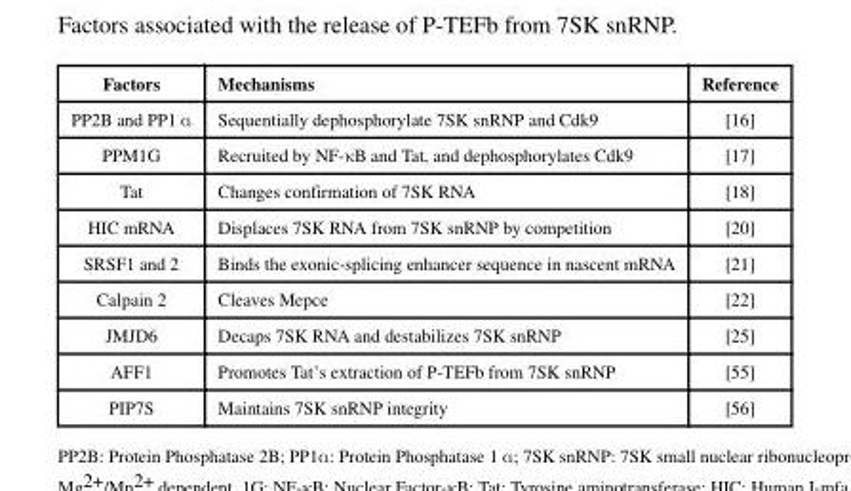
<table><thead><tr><td>Factors</td><td>Mechanisms</td><td>Reference</td></tr></thead><tbody><tr><td>PP2B and PP1 α</td><td>Sequentially dephosphorylate 7SK snRNP and Cdk9</td><td>[16]</td></tr><tr><td>PPM1G</td><td>Recruited by NF-κB and Tat, and dephosphorylates Cdk9</td><td>[17]</td></tr><tr><td>Tat</td><td>Changes confirmation of 7SK RNA</td><td>[18]</td></tr><tr><td>HIC mRNA</td><td>Displaces 7SK RNA from 7SK snRNP by competition</td><td>[20]</td></tr><tr><td>SRSF1 and 2</td><td>Binds the exonic-splicing enhancer sequence in nascent mRNA</td><td>[21]</td></tr><tr><td>Calpain 2</td><td>Cleaves Mepce</td><td>[22]</td></tr><tr><td>JMJD6</td><td>Decaps 7SK RNA and destabilizes 7SK snRNP</td><td>[25]</td></tr><tr><td>AFF1</td><td>Promotes Tat’s extraction of P-TEFb from 7SK snRNP</td><td>[55]</td></tr><tr><td>PIP7S</td><td>Maintains 7SK snRNP integrity</td><td>[56]</td></tr></tbody></table>